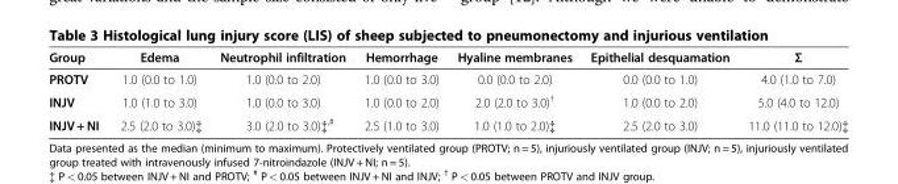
<table><thead><tr><td>Group</td><td>Edema</td><td>Neutrophil infiltration</td><td>Hemorrhage</td><td>Hyaline membranes</td><td>Epithelial desquamation</td><td>Σ</td></tr></thead><tbody><tr><td>PROTV</td><td>1.0 (0.0 to 1.0)</td><td>1.0 (0.0 to 2.0)</td><td>1.0 (0.0 to 3.0)</td><td>0.0 (0.0 to 2.0)</td><td>0.0 (0.0 to 1.0)</td><td>4.0 (1.0 to 7.0)</td></tr><tr><td>INJV</td><td>1.0 (1.0 to 3.0)</td><td>1.0 (0.0 to 3.0)</td><td>1.0 (0.0 to 2.0)</td><td>2.0 (2.0 to 3.0)<sup>†</sup></td><td>1.0 (0.0 to 2.0)</td><td>5.0 (4.0 to 12.0)</td></tr><tr><td>INJV + NI</td><td>2.5 (2.0 to 3.0)‡</td><td>3.0 (2.0 to 3.0)‡<sup>,#</sup></td><td>2.5 (1.0 to 3.0)</td><td>1.0 (1.0 to 2.0)‡</td><td>2.5 (2.0 to 3.0)</td><td>11.0 (11.0 to 12.0)‡</td></tr></tbody></table>